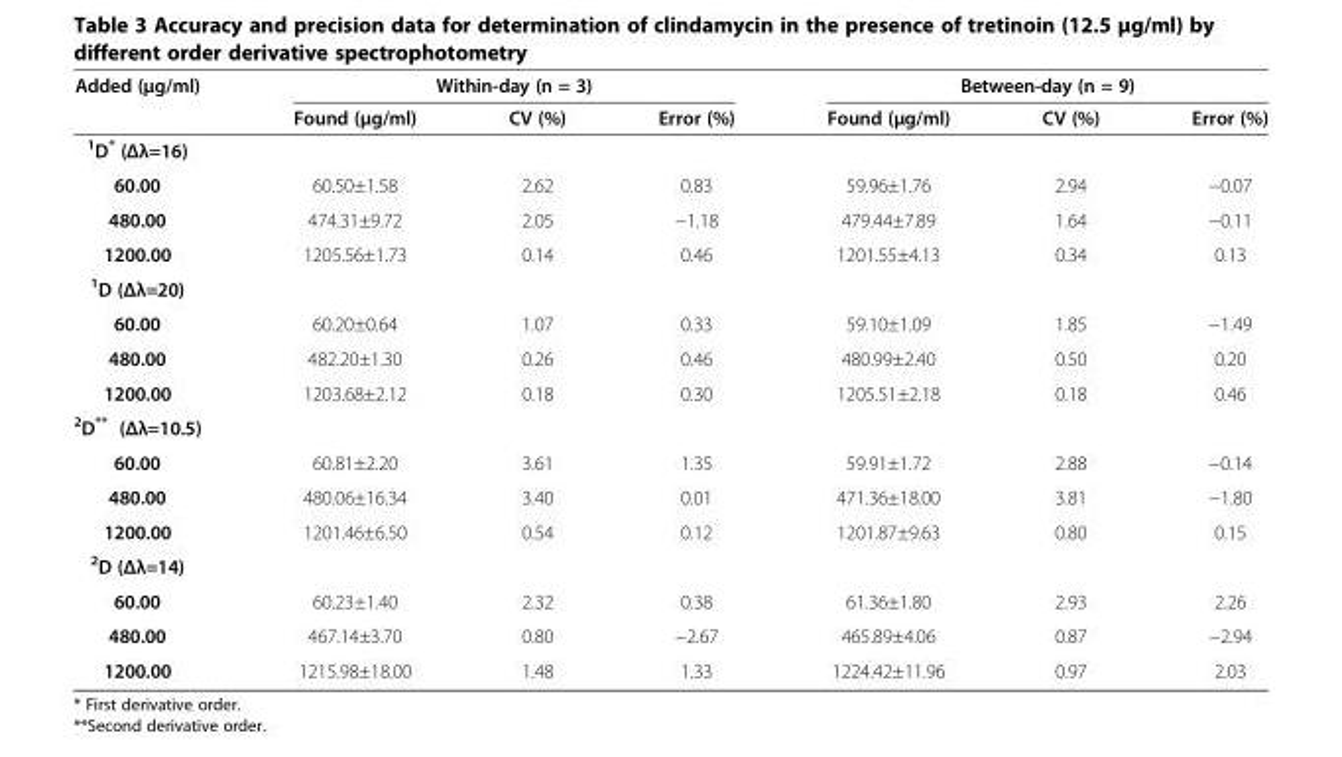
<table><thead><tr><td rowspan="2">Added (μg/ml)</td><td colspan="3">Within-day (n = 3)</td><td colspan="3">Between-day (n = 9)</td></tr><tr><td>Found (μg/ml)</td><td>CV (%)</td><td>Error (%)</td><td>Found (μg/ml)</td><td>CV (%)</td><td>Error (%)</td></tr></thead><tbody><tr><td colspan="7"><sup>1</sup>D* (Δλ=16)</td></tr><tr><td>60.00</td><td>60.50±1.58</td><td>2.62</td><td>0.83</td><td>59.96±1.76</td><td>2.94</td><td>−0.07</td></tr><tr><td>480.00</td><td>474.31±9.72</td><td>2.05</td><td>−1.18</td><td>479.44±7.89</td><td>1.64</td><td>−0.11</td></tr><tr><td>1200.00</td><td>1205.56±1.73</td><td>0.14</td><td>0.46</td><td>1201.55±4.13</td><td>0.34</td><td>0.13</td></tr><tr><td colspan="7"><sup>1</sup>D (Δλ=20)</td></tr><tr><td>60.00</td><td>60.20±0.64</td><td>1.07</td><td>0.33</td><td>59.10±1.09</td><td>1.85</td><td>−1.49</td></tr><tr><td>480.00</td><td>482.20±1.30</td><td>0.26</td><td>0.46</td><td>480.99±2.40</td><td>0.50</td><td>0.20</td></tr><tr><td>1200.00</td><td>1203.68±2.12</td><td>0.18</td><td>0.30</td><td>1205.51±2.18</td><td>0.18</td><td>0.46</td></tr><tr><td colspan="7"><sup>2</sup>D** (Δλ=10.5)</td></tr><tr><td>60.00</td><td>60.81±2.20</td><td>3.61</td><td>1.35</td><td>59.91±1.72</td><td>2.88</td><td>−0.14</td></tr><tr><td>480.00</td><td>480.06±16.34</td><td>3.40</td><td>0.01</td><td>471.36±18.00</td><td>3.81</td><td>−1.80</td></tr><tr><td>1200.00</td><td>1201.46±6.50</td><td>0.54</td><td>0.12</td><td>1201.87±9.63</td><td>0.80</td><td>0.15</td></tr><tr><td colspan="7"><sup>2</sup>D (Δλ=14)</td></tr><tr><td>60.00</td><td>60.23±1.40</td><td>2.32</td><td>0.38</td><td>61.36±1.80</td><td>2.93</td><td>2.26</td></tr><tr><td>480.00</td><td>467.14±3.70</td><td>0.80</td><td>−2.67</td><td>465.89±4.06</td><td>0.87</td><td>−2.94</td></tr><tr><td>1200.00</td><td>1215.98±18.00</td><td>1.48</td><td>1.33</td><td>1224.42±11.96</td><td>0.97</td><td>2.03</td></tr></tbody></table>